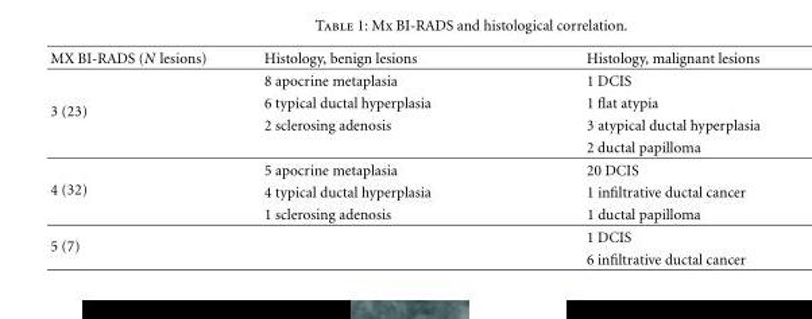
<table><thead><tr><td>MX BI-RADS (N lesions)</td><td>Histology, benign lesions</td><td>Histology, malignant lesions</td></tr></thead><tbody><tr><td rowspan="4">3 (23)</td><td>8 apocrine metaplasia</td><td>1 DCIS</td></tr><tr><td>6 typical ductal hyperplasia</td><td>1 flat atypia</td></tr><tr><td>2 sclerosing adenosis</td><td>3 atypical ductal hyperplasia</td></tr><tr><td></td><td>2 ductal papilloma</td></tr><tr><td rowspan="3">4 (32)</td><td>5 apocrine metaplasia</td><td>20 DCIS</td></tr><tr><td>4 typical ductal hyperplasia</td><td>1 infiltrative ductal cancer</td></tr><tr><td>1 sclerosing adenosis</td><td>1 ductal papilloma</td></tr><tr><td rowspan="2">5 (7)</td><td></td><td>1 DCIS</td></tr><tr><td></td><td>6 infiltrative ductal cancer</td></tr></tbody></table>